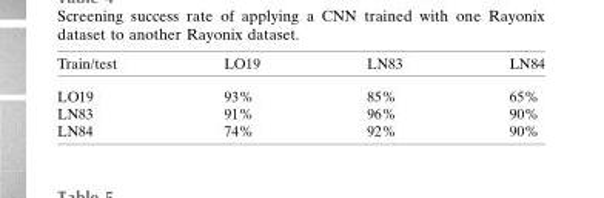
<table><thead><tr><td>Train/test</td><td>LO19</td><td>LN83</td><td>LN84</td></tr></thead><tbody><tr><td>LO19</td><td>93%</td><td>85%</td><td>65%</td></tr><tr><td>LN83</td><td>91%</td><td>96%</td><td>90%</td></tr><tr><td>LN84</td><td>74%</td><td>92%</td><td>90%</td></tr></tbody></table>